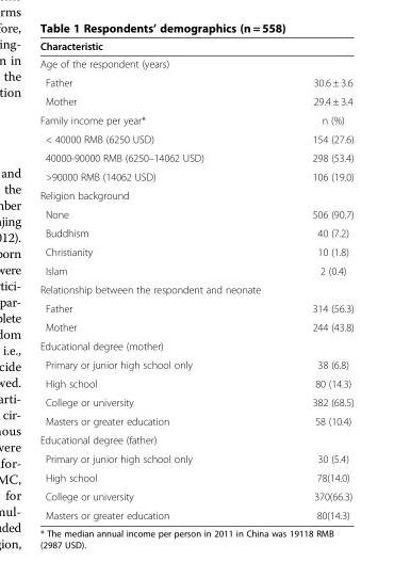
<table><thead><tr><td>Characteristic</td><td></td></tr></thead><tbody><tr><td colspan="2">Age of the respondent (years)</td></tr><tr><td>Father</td><td>30.6 ± 3.6</td></tr><tr><td>Mother</td><td>29.4 ± 3.4</td></tr><tr><td>Family income per year*</td><td>n (%)</td></tr><tr><td>&lt; 40000 RMB (6250 USD)</td><td>154 (27.6)</td></tr><tr><td>40000-90000 RMB (6250–14062 USD)</td><td>298 (53.4)</td></tr><tr><td>&gt;90000 RMB (14062 USD)</td><td>106 (19.0)</td></tr><tr><td colspan="2">Religion background</td></tr><tr><td>None</td><td>506 (90.7)</td></tr><tr><td>Buddhism</td><td>40 (7.2)</td></tr><tr><td>Christianity</td><td>10 (1.8)</td></tr><tr><td>Islam</td><td>2 (0.4)</td></tr><tr><td colspan="2">Relationship between the respondent and neonate</td></tr><tr><td>Father</td><td>314 (56.3)</td></tr><tr><td>Mother</td><td>244 (43.8)</td></tr><tr><td colspan="2">Educational degree (mother)</td></tr><tr><td>Primary or junior high school only</td><td>38 (6.8)</td></tr><tr><td>High school</td><td>80 (14.3)</td></tr><tr><td>College or university</td><td>382 (68.5)</td></tr><tr><td>Masters or greater education</td><td>58 (10.4)</td></tr><tr><td colspan="2">Educational degree (father)</td></tr><tr><td>Primary or junior high school only</td><td>30 (5.4)</td></tr><tr><td>High school</td><td>78(14.0)</td></tr><tr><td>College or university</td><td>370(66.3)</td></tr><tr><td>Masters or greater education</td><td>80(14.3)</td></tr></tbody></table>